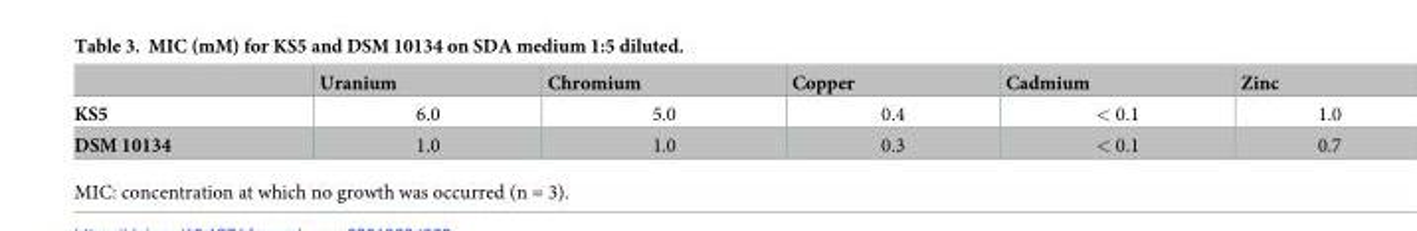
<table><thead><tr><td></td><td>Uranium</td><td>Chromium</td><td>Copper</td><td>Cadmium</td><td>Zinc</td></tr></thead><tbody><tr><td>KS5</td><td>6.0</td><td>5.0</td><td>0.4</td><td>&lt; 0.1</td><td>1.0</td></tr><tr><td>DSM 10134</td><td>1.0</td><td>1.0</td><td>0.3</td><td>&lt; 0.1</td><td>0.7</td></tr></tbody></table>